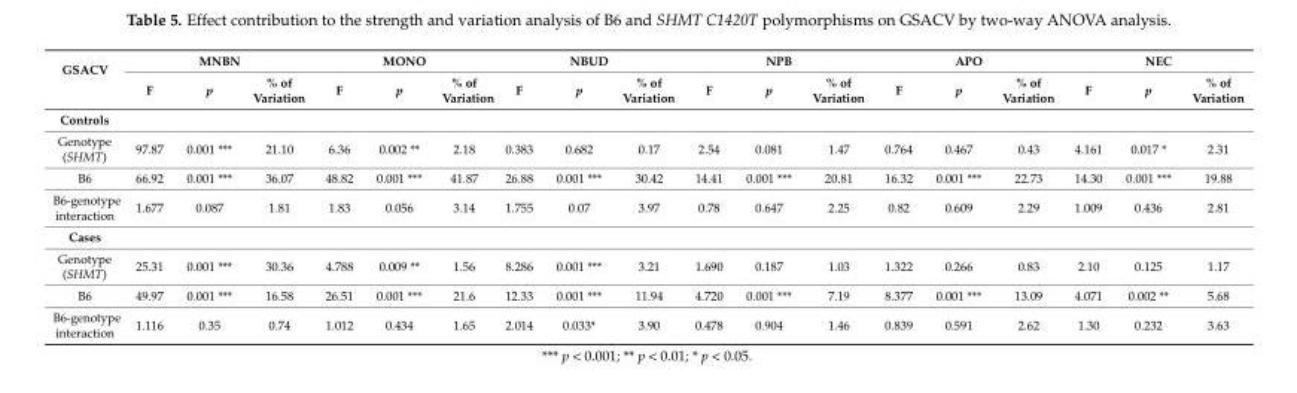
<table><thead><tr><td rowspan="2">GSACV</td><td colspan="3">MNBN</td><td colspan="3">MONO</td><td colspan="3">NBUD</td><td colspan="3">NPB</td><td colspan="3">APO</td><td colspan="3">NEC</td></tr><tr><td>F</td><td>p</td><td>% of Variation</td><td>F</td><td>p</td><td>% of Variation</td><td>F</td><td>p</td><td>% of Variation</td><td>F</td><td>p</td><td>% of Variation</td><td>F</td><td>p</td><td>% of Variation</td><td>F</td><td>p</td><td>% of Variation</td></tr></thead><tbody><tr><td colspan="19">Controls</td></tr><tr><td>Genotype (SHMT)</td><td>97.87</td><td>0.001 ***</td><td>21.10</td><td>6.36</td><td>0.002 **</td><td>2.18</td><td>0.383</td><td>0.682</td><td>0.17</td><td>2.54</td><td>0.081</td><td>1.47</td><td>0.764</td><td>0.467</td><td>0.43</td><td>4.161</td><td>0.017 *</td><td>2.31</td></tr><tr><td>B6</td><td>66.92</td><td>0.001 ***</td><td>36.07</td><td>48.82</td><td>0.001 ***</td><td>41.87</td><td>26.88</td><td>0.001 ***</td><td>30.42</td><td>14.41</td><td>0.001 ***</td><td>20.81</td><td>16.32</td><td>0.001 ***</td><td>22.73</td><td>14.30</td><td>0.001 ***</td><td>19.88</td></tr><tr><td>B6-genotype interaction</td><td>1.677</td><td>0.087</td><td>1.81</td><td>1.83</td><td>0.056</td><td>3.14</td><td>1.755</td><td>0.07</td><td>3.97</td><td>0.78</td><td>0.647</td><td>2.25</td><td>0.82</td><td>0.609</td><td>2.29</td><td>1.009</td><td>0.436</td><td>2.81</td></tr><tr><td colspan="19">Cases</td></tr><tr><td>Genotype (SHMT)</td><td>25.31</td><td>0.001 ***</td><td>30.36</td><td>4.788</td><td>0.009 **</td><td>1.56</td><td>8.286</td><td>0.001 ***</td><td>3.21</td><td>1.690</td><td>0.187</td><td>1.03</td><td>1.322</td><td>0.266</td><td>0.83</td><td>2.10</td><td>0.125</td><td>1.17</td></tr><tr><td>B6</td><td>49.97</td><td>0.001 ***</td><td>16.58</td><td>26.51</td><td>0.001 ***</td><td>21.6</td><td>12.33</td><td>0.001 ***</td><td>11.94</td><td>4.720</td><td>0.001 ***</td><td>7.19</td><td>8.377</td><td>0.001 ***</td><td>13.09</td><td>4.071</td><td>0.002 **</td><td>5.68</td></tr><tr><td>B6-genotype interaction</td><td>1.116</td><td>0.35</td><td>0.74</td><td>1.012</td><td>0.434</td><td>1.65</td><td>2.014</td><td>0.033*</td><td>3.90</td><td>0.478</td><td>0.904</td><td>1.46</td><td>0.839</td><td>0.591</td><td>2.62</td><td>1.30</td><td>0.232</td><td>3.63</td></tr></tbody></table>